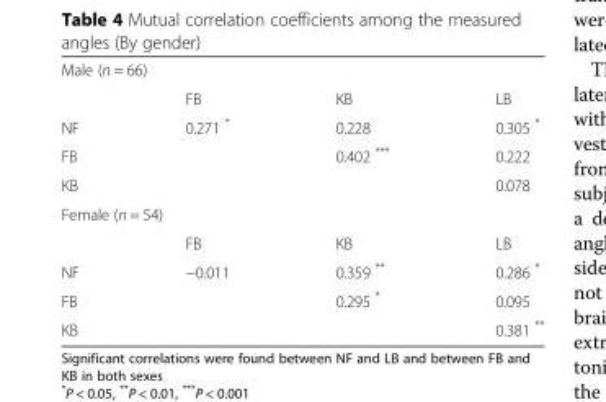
<table><tbody><tr><td colspan="4">Male (n = 66)</td></tr><tr><td></td><td>FB</td><td>KB</td><td>LB</td></tr><tr><td>NF</td><td>0.271 *</td><td>0.228</td><td>0.305 *</td></tr><tr><td>FB</td><td></td><td>0.402 ***</td><td>0.222</td></tr><tr><td>KB</td><td></td><td></td><td>0.078</td></tr><tr><td colspan="4">Female (n = 54)</td></tr><tr><td></td><td>FB</td><td>KB</td><td>LB</td></tr><tr><td>NF</td><td>−0.011</td><td>0.359 **</td><td>0.286 *</td></tr><tr><td>FB</td><td></td><td>0.295 *</td><td>0.095</td></tr><tr><td>KB</td><td></td><td></td><td>0.381 **</td></tr></tbody></table>